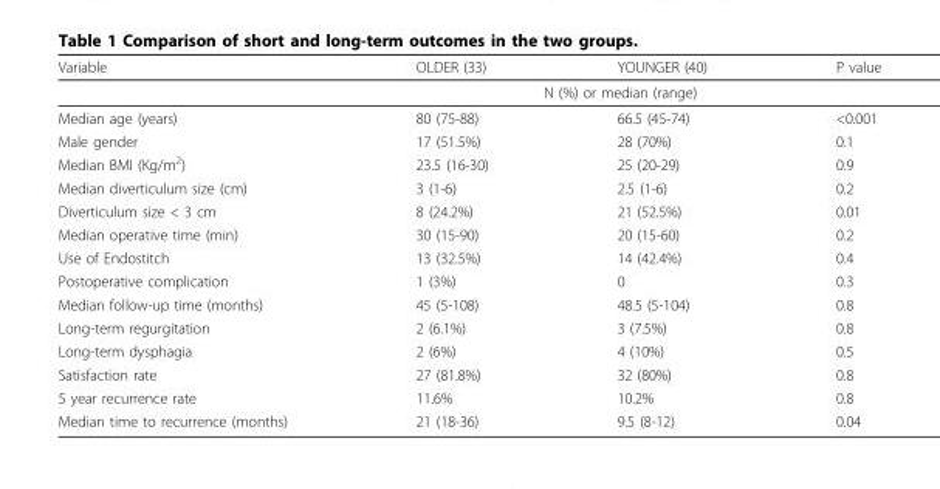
<table><thead><tr><td>Variable</td><td>OLDER (33)</td><td>YOUNGER (40)</td><td>P value</td></tr></thead><tbody><tr><td></td><td colspan="2">N (%) or median (range)</td><td></td></tr><tr><td>Median age (years)</td><td>80 (75-88)</td><td>66.5 (45-74)</td><td>&lt;0.001</td></tr><tr><td>Male gender</td><td>17 (51.5%)</td><td>28 (70%)</td><td>0.1</td></tr><tr><td>Median BMI (Kg/m<sup>2</sup>)</td><td>23.5 (16-30)</td><td>25 (20-29)</td><td>0.9</td></tr><tr><td>Median diverticulum size (cm)</td><td>3 (1-6)</td><td>2.5 (1-6)</td><td>0.2</td></tr><tr><td>Diverticulum size &lt; 3 cm</td><td>8 (24.2%)</td><td>21 (52.5%)</td><td>0.01</td></tr><tr><td>Median operative time (min)</td><td>30 (15-90)</td><td>20 (15-60)</td><td>0.2</td></tr><tr><td>Use of Endostitch</td><td>13 (32.5%)</td><td>14 (42.4%)</td><td>0.4</td></tr><tr><td>Postoperative complication</td><td>1 (3%)</td><td>0</td><td>0.3</td></tr><tr><td>Median follow-up time (months)</td><td>45 (5-108)</td><td>48.5 (5-104)</td><td>0.8</td></tr><tr><td>Long-term regurgitation</td><td>2 (6.1%)</td><td>3 (7.5%)</td><td>0.8</td></tr><tr><td>Long-term dysphagia</td><td>2 (6%)</td><td>4 (10%)</td><td>0.5</td></tr><tr><td>Satisfaction rate</td><td>27 (81.8%)</td><td>32 (80%)</td><td>0.8</td></tr><tr><td>5 year recurrence rate</td><td>11.6%</td><td>10.2%</td><td>0.8</td></tr><tr><td>Median time to recurrence (months)</td><td>21 (18-36)</td><td>9.5 (8-12)</td><td>0.04</td></tr></tbody></table>